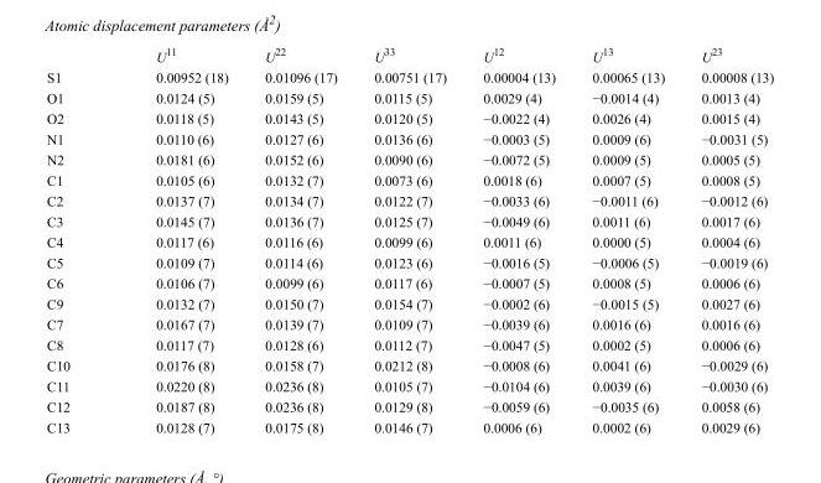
<table><thead><tr><td></td><td>U<sup>11</sup></td><td>U<sup>22</sup></td><td>U<sup>33</sup></td><td>U<sup>12</sup></td><td>U<sup>13</sup></td><td>U<sup>23</sup></td></tr></thead><tbody><tr><td>S1</td><td>0.00952 (18)</td><td>0.01096 (17)</td><td>0.00751 (17)</td><td>0.00004 (13)</td><td>0.00065 (13)</td><td>0.00008 (13)</td></tr><tr><td>O1</td><td>0.0124 (5)</td><td>0.0159 (5)</td><td>0.0115 (5)</td><td>0.0029 (4)</td><td>−0.0014 (4)</td><td>0.0013 (4)</td></tr><tr><td>O2</td><td>0.0118 (5)</td><td>0.0143 (5)</td><td>0.0120 (5)</td><td>−0.0022 (4)</td><td>0.0026 (4)</td><td>0.0015 (4)</td></tr><tr><td>N1</td><td>0.0110 (6)</td><td>0.0127 (6)</td><td>0.0136 (6)</td><td>−0.0003 (5)</td><td>0.0009 (6)</td><td>−0.0031 (5)</td></tr><tr><td>N2</td><td>0.0181 (6)</td><td>0.0152 (6)</td><td>0.0090 (6)</td><td>−0.0072 (5)</td><td>0.0009 (5)</td><td>0.0005 (5)</td></tr><tr><td>C1</td><td>0.0105 (6)</td><td>0.0132 (7)</td><td>0.0073 (6)</td><td>0.0018 (6)</td><td>0.0007 (5)</td><td>0.0008 (5)</td></tr><tr><td>C2</td><td>0.0137 (7)</td><td>0.0134 (7)</td><td>0.0122 (7)</td><td>−0.0033 (6)</td><td>−0.0011 (6)</td><td>−0.0012 (6)</td></tr><tr><td>C3</td><td>0.0145 (7)</td><td>0.0136 (7)</td><td>0.0125 (7)</td><td>−0.0049 (6)</td><td>0.0011 (6)</td><td>0.0017 (6)</td></tr><tr><td>C4</td><td>0.0117 (6)</td><td>0.0116 (6)</td><td>0.0099 (6)</td><td>0.0011 (6)</td><td>0.0000 (5)</td><td>0.0004 (6)</td></tr><tr><td>C5</td><td>0.0109 (7)</td><td>0.0114 (6)</td><td>0.0123 (6)</td><td>−0.0016 (5)</td><td>−0.0006 (5)</td><td>−0.0019 (6)</td></tr><tr><td>C6</td><td>0.0106 (7)</td><td>0.0099 (6)</td><td>0.0117 (6)</td><td>−0.0007 (5)</td><td>0.0008 (5)</td><td>0.0006 (6)</td></tr><tr><td>C9</td><td>0.0132 (7)</td><td>0.0150 (7)</td><td>0.0154 (7)</td><td>−0.0002 (6)</td><td>−0.0015 (5)</td><td>0.0027 (6)</td></tr><tr><td>C7</td><td>0.0167 (7)</td><td>0.0139 (7)</td><td>0.0109 (7)</td><td>−0.0039 (6)</td><td>0.0016 (6)</td><td>0.0016 (6)</td></tr><tr><td>C8</td><td>0.0117 (7)</td><td>0.0128 (6)</td><td>0.0112 (7)</td><td>−0.0047 (5)</td><td>0.0002 (5)</td><td>0.0006 (6)</td></tr><tr><td>C10</td><td>0.0176 (8)</td><td>0.0158 (7)</td><td>0.0212 (8)</td><td>−0.0008 (6)</td><td>0.0041 (6)</td><td>−0.0029 (6)</td></tr><tr><td>C11</td><td>0.0220 (8)</td><td>0.0236 (8)</td><td>0.0105 (7)</td><td>−0.0104 (6)</td><td>0.0039 (6)</td><td>−0.0030 (6)</td></tr><tr><td>C12</td><td>0.0187 (8)</td><td>0.0236 (8)</td><td>0.0129 (8)</td><td>−0.0059 (6)</td><td>−0.0035 (6)</td><td>0.0058 (6)</td></tr><tr><td>C13</td><td>0.0128 (7)</td><td>0.0175 (8)</td><td>0.0146 (7)</td><td>0.0006 (6)</td><td>0.0002 (6)</td><td>0.0029 (6)</td></tr></tbody></table>